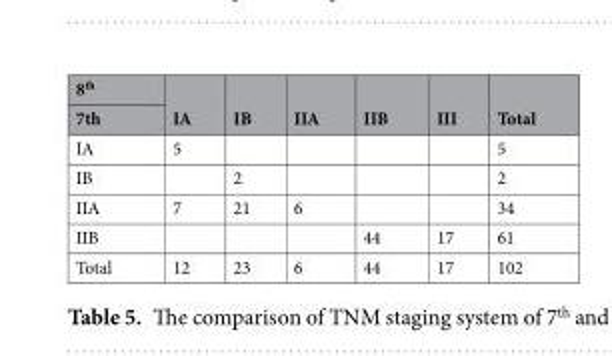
<table><thead><tr><td rowspan="2">8<sup>th</sup> 7th</td><td rowspan="2">IA</td><td rowspan="2">IB</td><td rowspan="2">IIA</td><td rowspan="2">IIB</td><td rowspan="2">III</td><td rowspan="2">Total</td></tr><tr></tr></thead><tbody><tr><td>IA</td><td>5</td><td></td><td></td><td></td><td></td><td>5</td></tr><tr><td>IB</td><td></td><td>2</td><td></td><td></td><td></td><td>2</td></tr><tr><td>IIA</td><td>7</td><td>21</td><td>6</td><td></td><td></td><td>34</td></tr><tr><td>IIB</td><td></td><td></td><td></td><td>44</td><td>17</td><td>61</td></tr><tr><td>Total</td><td>12</td><td>23</td><td>6</td><td>44</td><td>17</td><td>102</td></tr></tbody></table>